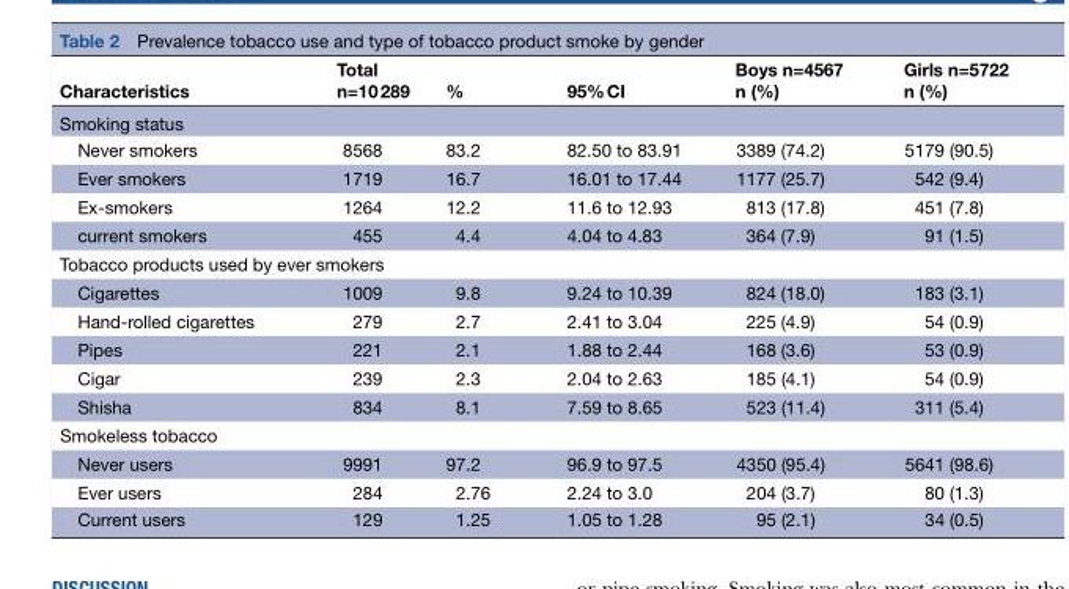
<table><thead><tr><td>Characteristics</td><td>Total n=10 289</td><td>%</td><td>95% CI</td><td>Boys n=4567 n (%)</td><td>Girls n=5722 n (%)</td></tr></thead><tbody><tr><td colspan="6">Smoking status</td></tr><tr><td>Never smokers</td><td>8568</td><td>83.2</td><td>82.50 to 83.91</td><td>3389 (74.2)</td><td>5179 (90.5)</td></tr><tr><td>Ever smokers</td><td>1719</td><td>16.7</td><td>16.01 to 17.44</td><td>1177 (25.7)</td><td>542 (9.4)</td></tr><tr><td>Ex-smokers</td><td>1264</td><td>12.2</td><td>11.6 to 12.93</td><td>813 (17.8)</td><td>451 (7.8)</td></tr><tr><td>current smokers</td><td>455</td><td>4.4</td><td>4.04 to 4.83</td><td>364 (7.9)</td><td>91 (1.5)</td></tr><tr><td colspan="6">Tobacco products used by ever smokers</td></tr><tr><td>Cigarettes</td><td>1009</td><td>9.8</td><td>9.24 to 10.39</td><td>824 (18.0)</td><td>183 (3.1)</td></tr><tr><td>Hand-rolled cigarettes</td><td>279</td><td>2.7</td><td>2.41 to 3.04</td><td>225 (4.9)</td><td>54 (0.9)</td></tr><tr><td>Pipes</td><td>221</td><td>2.1</td><td>1.88 to 2.44</td><td>168 (3.6)</td><td>53 (0.9)</td></tr><tr><td>Cigar</td><td>239</td><td>2.3</td><td>2.04 to 2.63</td><td>185 (4.1)</td><td>54 (0.9)</td></tr><tr><td>Shisha</td><td>834</td><td>8.1</td><td>7.59 to 8.65</td><td>523 (11.4)</td><td>311 (5.4)</td></tr><tr><td colspan="6">Smokeless tobacco</td></tr><tr><td>Never users</td><td>9991</td><td>97.2</td><td>96.9 to 97.5</td><td>4350 (95.4)</td><td>5641 (98.6)</td></tr><tr><td>Ever users</td><td>284</td><td>2.76</td><td>2.24 to 3.0</td><td>204 (3.7)</td><td>80 (1.3)</td></tr><tr><td>Current users</td><td>129</td><td>1.25</td><td>1.05 to 1.28</td><td>95 (2.1)</td><td>34 (0.5)</td></tr></tbody></table>